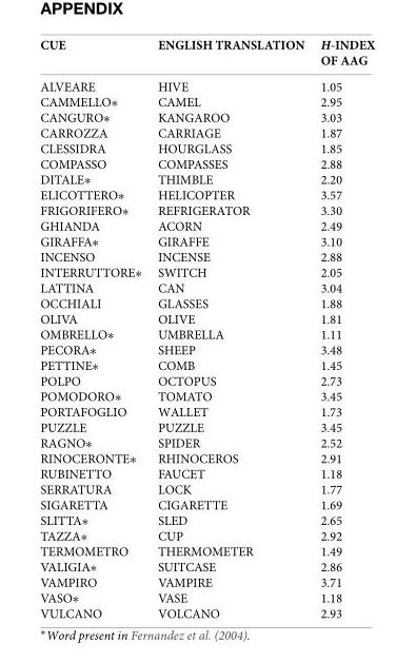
<table><thead><tr><td>CUE</td><td>ENGLISH TRANSLATION</td><td>H-INDEX OF AAG</td></tr></thead><tbody><tr><td>ALVEARE</td><td>HIVE</td><td>1.05</td></tr><tr><td>CAMMELLO∗</td><td>CAMEL</td><td>2.95</td></tr><tr><td>CANGURO∗</td><td>KANGAROO</td><td>3.03</td></tr><tr><td>CARROZZA</td><td>CARRIAGE</td><td>1.87</td></tr><tr><td>CLESSIDRA</td><td>HOURGLASS</td><td>1.85</td></tr><tr><td>COMPASSO</td><td>COMPASSES</td><td>2.88</td></tr><tr><td>DITALE∗</td><td>THIMBLE</td><td>2.20</td></tr><tr><td>ELICOTTERO∗</td><td>HELICOPTER</td><td>3.57</td></tr><tr><td>FRIGORIFERO∗</td><td>REFRIGERATOR</td><td>3.30</td></tr><tr><td>GHIANDA</td><td>ACORN</td><td>2.49</td></tr><tr><td>GIRAFFA∗</td><td>GIRAFFE</td><td>3.10</td></tr><tr><td>INCENSO</td><td>INCENSE</td><td>2.88</td></tr><tr><td>INTERRUTTORE∗</td><td>SWITCH</td><td>2.05</td></tr><tr><td>LATTINA</td><td>CAN</td><td>3.04</td></tr><tr><td>OCCHIALI</td><td>GLASSES</td><td>1.88</td></tr><tr><td>OLIVA</td><td>OLIVE</td><td>1.81</td></tr><tr><td>OMBRELLO∗</td><td>UMBRELLA</td><td>1.11</td></tr><tr><td>PECORA∗</td><td>SHEEP</td><td>3.48</td></tr><tr><td>PETTINE∗</td><td>COMB</td><td>1.45</td></tr><tr><td>POLPO</td><td>OCTOPUS</td><td>2.73</td></tr><tr><td>POMODORO∗</td><td>TOMATO</td><td>3.45</td></tr><tr><td>PORTAFOGLIO</td><td>WALLET</td><td>1.73</td></tr><tr><td>PUZZLE</td><td>PUZZLE</td><td>3.45</td></tr><tr><td>RAGNO∗</td><td>SPIDER</td><td>2.52</td></tr><tr><td>RINOCERONTE∗</td><td>RHINOCEROS</td><td>2.91</td></tr><tr><td>RUBINETTO</td><td>FAUCET</td><td>1.18</td></tr><tr><td>SERRATURA</td><td>LOCK</td><td>1.77</td></tr><tr><td>SIGARETTA</td><td>CIGARETTE</td><td>1.69</td></tr><tr><td>SLITTA∗</td><td>SLED</td><td>2.65</td></tr><tr><td>TAZZA∗</td><td>CUP</td><td>2.92</td></tr><tr><td>TERMOMETRO</td><td>THERMOMETER</td><td>1.49</td></tr><tr><td>VALIGIA∗</td><td>SUITCASE</td><td>2.86</td></tr><tr><td>VAMPIRO</td><td>VAMPIRE</td><td>3.71</td></tr><tr><td>VASO∗</td><td>VASE</td><td>1.18</td></tr><tr><td>VULCANO</td><td>VOLCANO</td><td>2.93</td></tr></tbody></table>